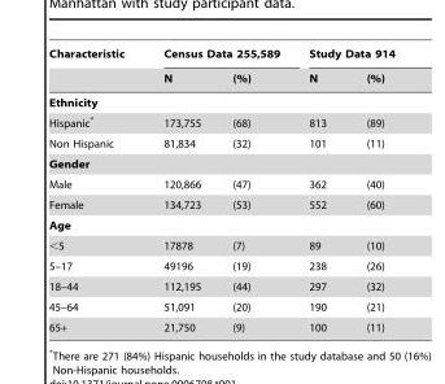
<table><thead><tr><td rowspan="2">Characteristic</td><td colspan="2">Census Data 255,589</td><td colspan="2">Study Data 914</td></tr><tr><td>N</td><td>(%)</td><td>N</td><td>(%)</td></tr></thead><tbody><tr><td colspan="5">Ethnicity</td></tr><tr><td>Hispanic*</td><td>173,755</td><td>(68)</td><td>813</td><td>(89)</td></tr><tr><td>Non Hispanic</td><td>81,834</td><td>(32)</td><td>101</td><td>(11)</td></tr><tr><td colspan="5">Gender</td></tr><tr><td>Male</td><td>120,866</td><td>(47)</td><td>362</td><td>(40)</td></tr><tr><td>Female</td><td>134,723</td><td>(53)</td><td>552</td><td>(60)</td></tr><tr><td colspan="5">Age</td></tr><tr><td>&lt;5</td><td>17878</td><td>(7)</td><td>89</td><td>(10)</td></tr><tr><td>5–17</td><td>49196</td><td>(19)</td><td>238</td><td>(26)</td></tr><tr><td>18–44</td><td>112,195</td><td>(44)</td><td>297</td><td>(32)</td></tr><tr><td>45–64</td><td>51,091</td><td>(20)</td><td>190</td><td>(21)</td></tr><tr><td>65+</td><td>21,750</td><td>(9)</td><td>100</td><td>(11)</td></tr></tbody></table>